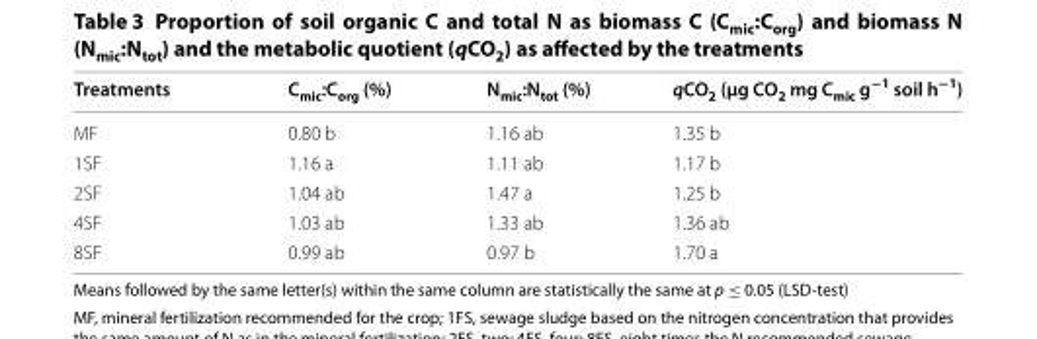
<table><thead><tr><td>Treatments</td><td>C<sub>mic</sub>:C<sub>org</sub> (%)</td><td>N<sub>mic</sub>:N<sub>tot</sub> (%)</td><td>qCO<sub>2</sub> (μg CO<sub>2</sub> mg C<sub>mic</sub> g<sup>−1</sup> soil h<sup>−1</sup>)</td></tr></thead><tbody><tr><td>MF</td><td>0.80 b</td><td>1.16 ab</td><td>1.35 b</td></tr><tr><td>1SF</td><td>1.16 a</td><td>1.11 ab</td><td>1.17 b</td></tr><tr><td>2SF</td><td>1.04 ab</td><td>1.47 a</td><td>1.25 b</td></tr><tr><td>4SF</td><td>1.03 ab</td><td>1.33 ab</td><td>1.36 ab</td></tr><tr><td>8SF</td><td>0.99 ab</td><td>0.97 b</td><td>1.70 a</td></tr></tbody></table>